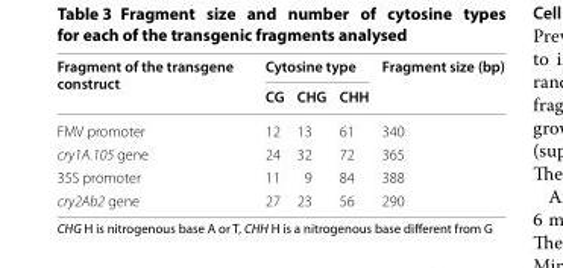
<table><thead><tr><td rowspan="2">Fragment of the transgene construct</td><td colspan="3">Cytosine type</td><td rowspan="2">Fragment size (bp)</td></tr><tr><td>CG</td><td>CHG</td><td>CHH</td></tr></thead><tbody><tr><td>FMV promoter</td><td>12</td><td>13</td><td>61</td><td>340</td></tr><tr><td>cry1A.105 gene</td><td>24</td><td>32</td><td>72</td><td>365</td></tr><tr><td>35S promoter</td><td>11</td><td>9</td><td>84</td><td>388</td></tr><tr><td>cry2Ab2 gene</td><td>27</td><td>23</td><td>56</td><td>290</td></tr></tbody></table>